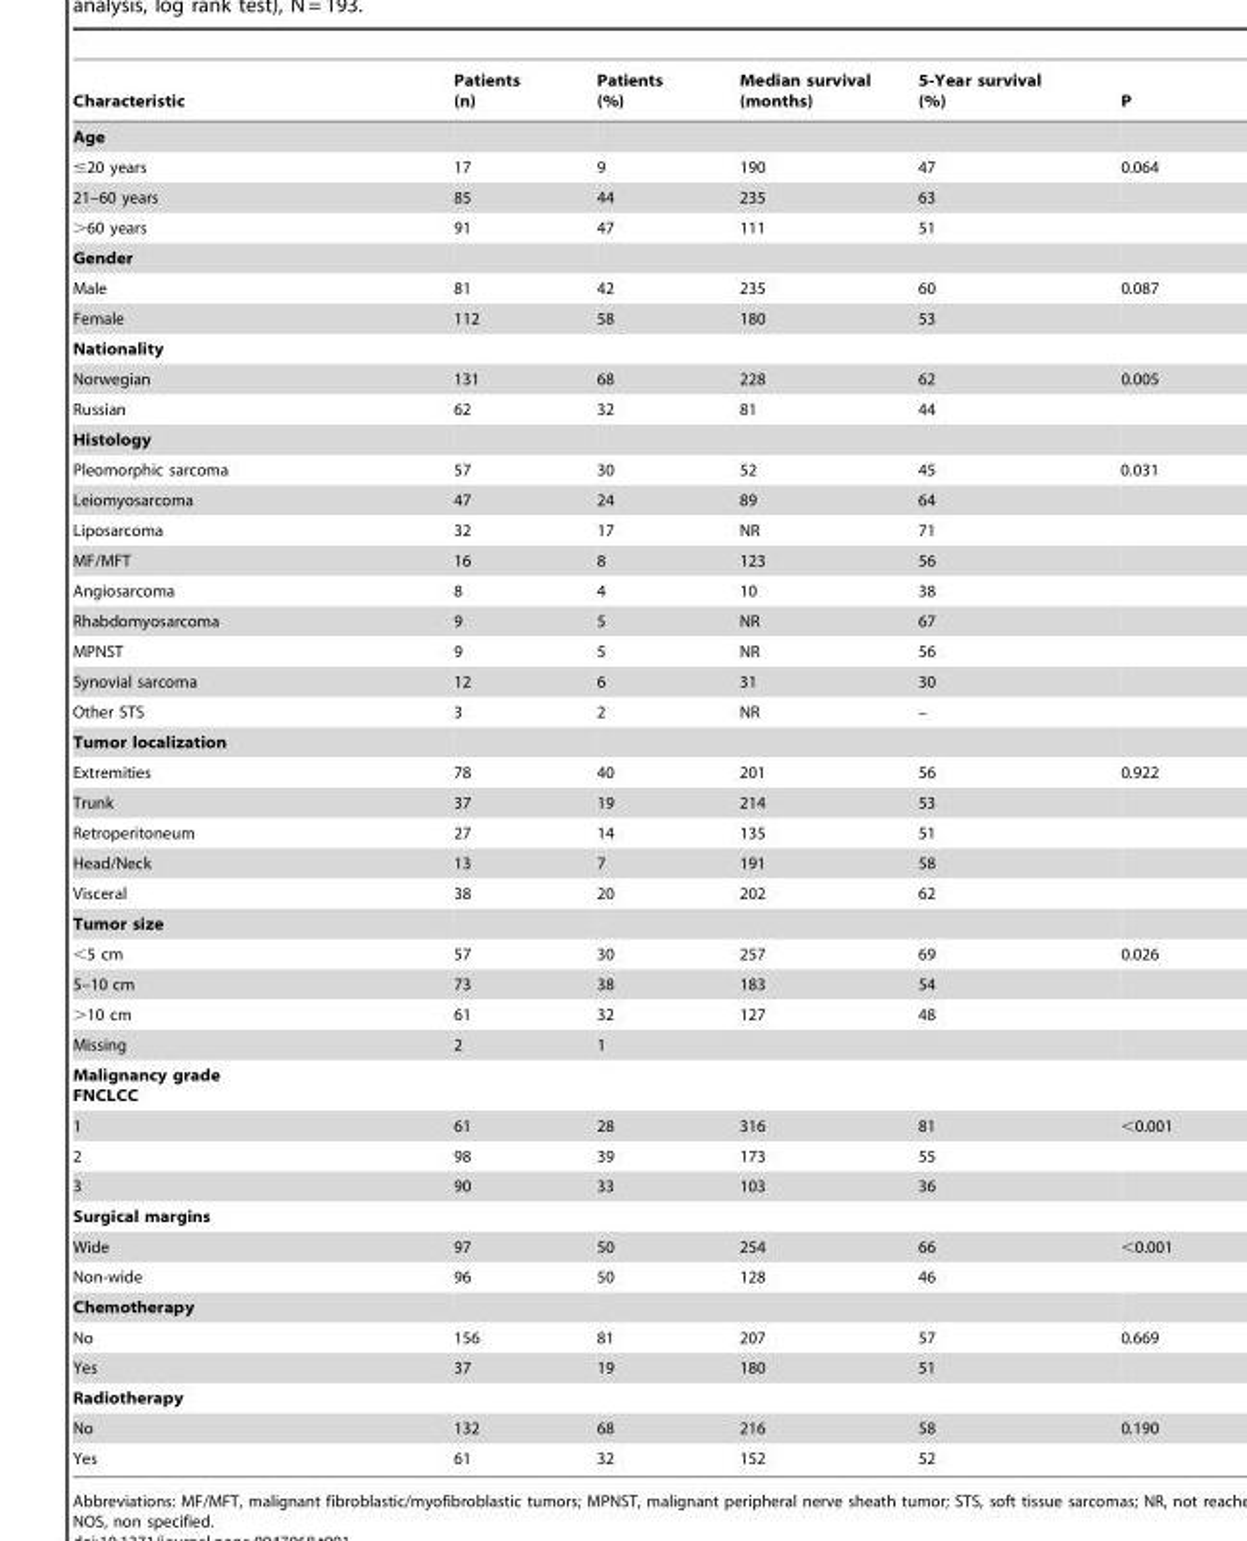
<table><thead><tr><td>Characteristic</td><td>Patients (n)</td><td>Patients (%)</td><td>Median survival (months)</td><td>5-Year survival (%)</td><td>P</td></tr></thead><tbody><tr><td colspan="6">Age</td></tr><tr><td>≤20 years</td><td>17</td><td>9</td><td>190</td><td>47</td><td>0.064</td></tr><tr><td>21–60 years</td><td>85</td><td>44</td><td>235</td><td>63</td><td></td></tr><tr><td>&gt;60 years</td><td>91</td><td>47</td><td>111</td><td>51</td><td></td></tr><tr><td colspan="6">Gender</td></tr><tr><td>Male</td><td>81</td><td>42</td><td>235</td><td>60</td><td>0.087</td></tr><tr><td>Female</td><td>112</td><td>58</td><td>180</td><td>53</td><td></td></tr><tr><td colspan="6">Nationality</td></tr><tr><td>Norwegian</td><td>131</td><td>68</td><td>228</td><td>62</td><td>0.005</td></tr><tr><td>Russian</td><td>62</td><td>32</td><td>81</td><td>44</td><td></td></tr><tr><td colspan="6">Histology</td></tr><tr><td>Pleomorphic sarcoma</td><td>57</td><td>30</td><td>52</td><td>45</td><td>0.031</td></tr><tr><td>Leiomyosarcoma</td><td>47</td><td>24</td><td>89</td><td>64</td><td></td></tr><tr><td>Liposarcoma</td><td>32</td><td>17</td><td>NR</td><td>71</td><td></td></tr><tr><td>MF/MFT</td><td>16</td><td>8</td><td>123</td><td>56</td><td></td></tr><tr><td>Angiosarcoma</td><td>8</td><td>4</td><td>10</td><td>38</td><td></td></tr><tr><td>Rhabdomyosarcoma</td><td>9</td><td>5</td><td>NR</td><td>67</td><td></td></tr><tr><td>MPNST</td><td>9</td><td>5</td><td>NR</td><td>56</td><td></td></tr><tr><td>Synovial sarcoma</td><td>12</td><td>6</td><td>31</td><td>30</td><td></td></tr><tr><td>Other STS</td><td>3</td><td>2</td><td>NR</td><td>–</td><td></td></tr><tr><td colspan="6">Tumor localization</td></tr><tr><td>Extremities</td><td>78</td><td>40</td><td>201</td><td>56</td><td>0.922</td></tr><tr><td>Trunk</td><td>37</td><td>19</td><td>214</td><td>53</td><td></td></tr><tr><td>Retroperitoneum</td><td>27</td><td>14</td><td>135</td><td>51</td><td></td></tr><tr><td>Head/Neck</td><td>13</td><td>7</td><td>191</td><td>58</td><td></td></tr><tr><td>Visceral</td><td>38</td><td>20</td><td>202</td><td>62</td><td></td></tr><tr><td colspan="6">Tumor size</td></tr><tr><td>&lt;5 cm</td><td>57</td><td>30</td><td>257</td><td>69</td><td>0.026</td></tr><tr><td>5–10 cm</td><td>73</td><td>38</td><td>183</td><td>54</td><td></td></tr><tr><td>&gt;10 cm</td><td>61</td><td>32</td><td>127</td><td>48</td><td></td></tr><tr><td>Missing</td><td>2</td><td>1</td><td></td><td></td><td></td></tr><tr><td colspan="6">Malignancy grade FNCLCC</td></tr><tr><td>1</td><td>61</td><td>28</td><td>316</td><td>81</td><td>&lt;0.001</td></tr><tr><td>2</td><td>98</td><td>39</td><td>173</td><td>55</td><td></td></tr><tr><td>3</td><td>90</td><td>33</td><td>103</td><td>36</td><td></td></tr><tr><td colspan="6">Surgical margins</td></tr><tr><td>Wide</td><td>97</td><td>50</td><td>254</td><td>66</td><td>&lt;0.001</td></tr><tr><td>Non-wide</td><td>96</td><td>50</td><td>128</td><td>46</td><td></td></tr><tr><td colspan="6">Chemotherapy</td></tr><tr><td>No</td><td>156</td><td>81</td><td>207</td><td>57</td><td>0.669</td></tr><tr><td>Yes</td><td>37</td><td>19</td><td>180</td><td>51</td><td></td></tr><tr><td colspan="6">Radiotherapy</td></tr><tr><td>No</td><td>132</td><td>68</td><td>216</td><td>58</td><td>0.190</td></tr><tr><td>Yes</td><td>61</td><td>32</td><td>152</td><td>52</td><td></td></tr></tbody></table>